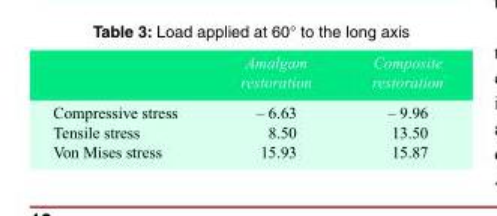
<table><thead><tr><td></td><td>Amalgam restoration</td><td>Composite restoration</td></tr></thead><tbody><tr><td>Compressive stress</td><td>– 6.63</td><td>– 9.96</td></tr><tr><td>Tensile stress</td><td>8.50</td><td>13.50</td></tr><tr><td>Von Mises stress</td><td>15.93</td><td>15.87</td></tr></tbody></table>